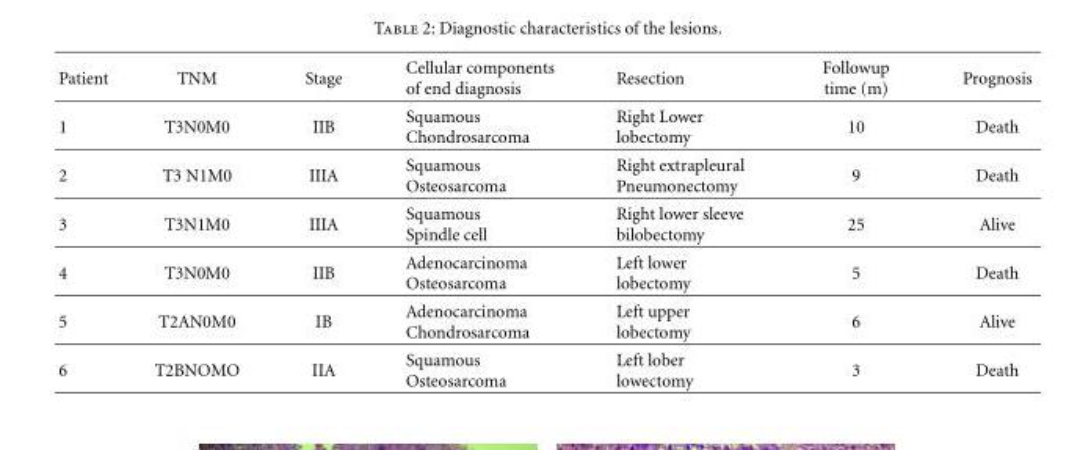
<table><thead><tr><td>Patient</td><td>TNM</td><td>Stage</td><td>Cellular components of end diagnosis</td><td>Resection</td><td>Followup time (m)</td><td>Prognosis</td></tr></thead><tbody><tr><td>1</td><td>T3N0M0</td><td>IIB</td><td>Squamous Chondrosarcoma</td><td>Right Lower lobectomy</td><td>10</td><td>Death</td></tr><tr><td>2</td><td>T3 N1M0</td><td>IIIA</td><td>Squamous Osteosarcoma</td><td>Right extrapleural Pneumonectomy</td><td>9</td><td>Death</td></tr><tr><td>3</td><td>T3N1M0</td><td>IIIA</td><td>Squamous Spindle cell</td><td>Right lower sleeve bilobectomy</td><td>25</td><td>Alive</td></tr><tr><td>4</td><td>T3N0M0</td><td>IIB</td><td>Adenocarcinoma Osteosarcoma</td><td>Left lower lobectomy</td><td>5</td><td>Death</td></tr><tr><td>5</td><td>T2AN0M0</td><td>IB</td><td>Adenocarcinoma Chondrosarcoma</td><td>Left upper lobectomy</td><td>6</td><td>Alive</td></tr><tr><td>6</td><td>T2BNOMO</td><td>IIA</td><td>Squamous Osteosarcoma</td><td>Left lober lowectomy</td><td>3</td><td>Death</td></tr></tbody></table>